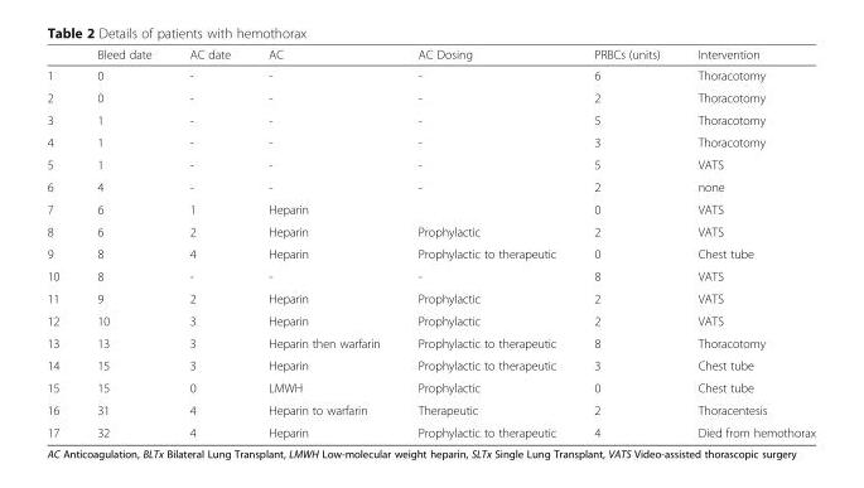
<table><thead><tr><td></td><td>Bleed date</td><td>AC date</td><td>AC</td><td>AC Dosing</td><td>PRBCs (units)</td><td>Intervention</td></tr></thead><tbody><tr><td>1</td><td>0</td><td>-</td><td>-</td><td>-</td><td>6</td><td>Thoracotomy</td></tr><tr><td>2</td><td>0</td><td>-</td><td>-</td><td>-</td><td>2</td><td>Thoracotomy</td></tr><tr><td>3</td><td>1</td><td>-</td><td>-</td><td>-</td><td>5</td><td>Thoracotomy</td></tr><tr><td>4</td><td>1</td><td>-</td><td>-</td><td>-</td><td>3</td><td>Thoracotomy</td></tr><tr><td>5</td><td>1</td><td>-</td><td>-</td><td>-</td><td>5</td><td>VATS</td></tr><tr><td>6</td><td>4</td><td>-</td><td>-</td><td>-</td><td>2</td><td>none</td></tr><tr><td>7</td><td>6</td><td>1</td><td>Heparin</td><td></td><td>0</td><td>VATS</td></tr><tr><td>8</td><td>6</td><td>2</td><td>Heparin</td><td>Prophylactic</td><td>2</td><td>VATS</td></tr><tr><td>9</td><td>8</td><td>4</td><td>Heparin</td><td>Prophylactic to therapeutic</td><td>0</td><td>Chest tube</td></tr><tr><td>10</td><td>8</td><td>-</td><td>-</td><td>-</td><td>8</td><td>VATS</td></tr><tr><td>11</td><td>9</td><td>2</td><td>Heparin</td><td>Prophylactic</td><td>2</td><td>VATS</td></tr><tr><td>12</td><td>10</td><td>3</td><td>Heparin</td><td>Prophylactic</td><td>2</td><td>VATS</td></tr><tr><td>13</td><td>13</td><td>3</td><td>Heparin then warfarin</td><td>Prophylactic to therapeutic</td><td>8</td><td>Thoracotomy</td></tr><tr><td>14</td><td>15</td><td>3</td><td>Heparin</td><td>Prophylactic to therapeutic</td><td>3</td><td>Chest tube</td></tr><tr><td>15</td><td>15</td><td>0</td><td>LMWH</td><td>Prophylactic</td><td>0</td><td>Chest tube</td></tr><tr><td>16</td><td>31</td><td>4</td><td>Heparin to warfarin</td><td>Therapeutic</td><td>2</td><td>Thoracentesis</td></tr><tr><td>17</td><td>32</td><td>4</td><td>Heparin</td><td>Prophylactic to therapeutic</td><td>4</td><td>Died from hemothorax</td></tr></tbody></table>